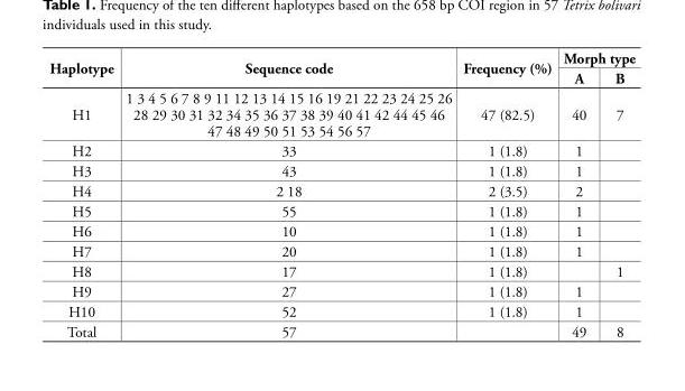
<table><thead><tr><td rowspan="2">Haplotype</td><td rowspan="2">Sequence code</td><td rowspan="2">Frequency (%)</td><td colspan="2">Morph type</td></tr><tr><td>A</td><td>B</td></tr></thead><tbody><tr><td>H1</td><td>1 3 4 5 6 7 8 9 11 12 13 14 15 16 19 21 22 23 24 25 26 28 29 30 31 32 34 35 36 37 38 39 40 41 42 44 45 46 47 48 49 50 51 53 54 56 57</td><td>47 (82.5)</td><td>40</td><td>7</td></tr><tr><td>H2</td><td>33</td><td>1 (1.8)</td><td>1</td><td></td></tr><tr><td>H3</td><td>43</td><td>1 (1.8)</td><td>1</td><td></td></tr><tr><td>H4</td><td>2 18</td><td>2 (3.5)</td><td>2</td><td></td></tr><tr><td>H5</td><td>55</td><td>1 (1.8)</td><td>1</td><td></td></tr><tr><td>H6</td><td>10</td><td>1 (1.8)</td><td>1</td><td></td></tr><tr><td>H7</td><td>20</td><td>1 (1.8)</td><td>1</td><td></td></tr><tr><td>H8</td><td>17</td><td>1 (1.8)</td><td></td><td>1</td></tr><tr><td>H9</td><td>27</td><td>1 (1.8)</td><td>1</td><td></td></tr><tr><td>H10</td><td>52</td><td>1 (1.8)</td><td>1</td><td></td></tr><tr><td>Total</td><td>57</td><td></td><td>49</td><td>8</td></tr></tbody></table>